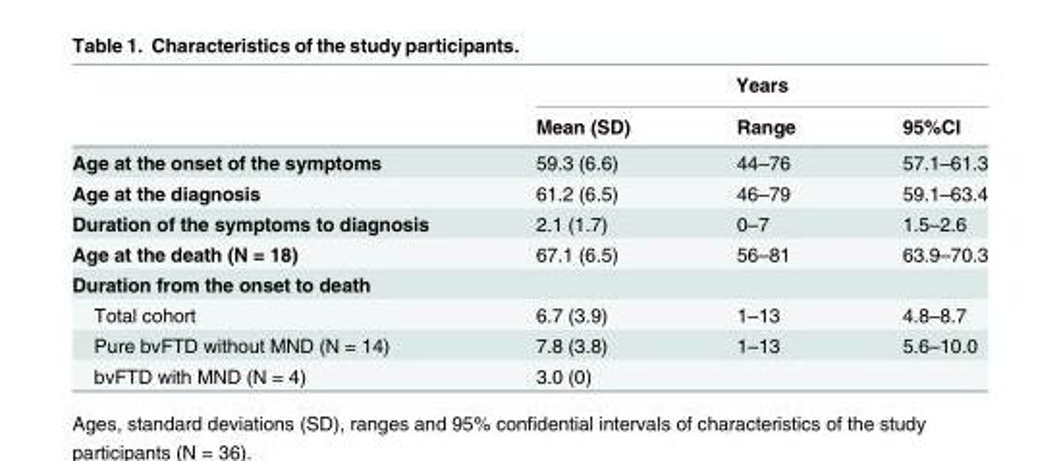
<table><thead><tr><td rowspan="2"></td><td colspan="3">Years</td></tr><tr><td>Mean (SD)</td><td>Range</td><td>95%CI</td></tr></thead><tbody><tr><td>Age at the onset of the symptoms</td><td>59.3 (6.6)</td><td>44–76</td><td>57.1–61.3</td></tr><tr><td>Age at the diagnosis</td><td>61.2 (6.5)</td><td>46–79</td><td>59.1–63.4</td></tr><tr><td>Duration of the symptoms to diagnosis</td><td>2.1 (1.7)</td><td>0–7</td><td>1.5–2.6</td></tr><tr><td>Age at the death (N = 18)</td><td>67.1 (6.5)</td><td>56–81</td><td>63.9–70.3</td></tr><tr><td colspan="4">Duration from the onset to death</td></tr><tr><td>Total cohort</td><td>6.7 (3.9)</td><td>1–13</td><td>4.8–8.7</td></tr><tr><td>Pure bvFTD without MND (N = 14)</td><td>7.8 (3.8)</td><td>1–13</td><td>5.6–10.0</td></tr><tr><td>bvFTD with MND (N = 4)</td><td>3.0 (0)</td><td></td><td></td></tr></tbody></table>